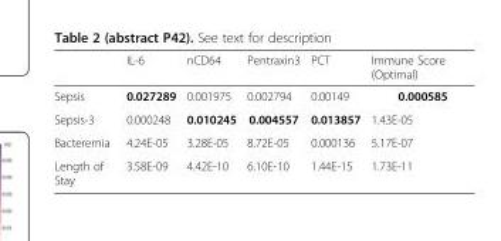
<table><thead><tr><td></td><td>IL-6</td><td>nCD64</td><td>Pentraxin3</td><td>PCT</td><td>Immune Score (Optimal)</td></tr></thead><tbody><tr><td>Sepsis</td><td>0.027289</td><td>0.001975</td><td>0.002794</td><td>0.00149</td><td>0.000585</td></tr><tr><td>Sepsis-3</td><td>0.000248</td><td>0.010245</td><td>0.004557</td><td>0.013857</td><td>1.43E-05</td></tr><tr><td>Bacteremia</td><td>4.24E-05</td><td>3.28E-05</td><td>8.72E-05</td><td>0.000136</td><td>5.17E-07</td></tr><tr><td>Length of Stay</td><td>3.58E-09</td><td>4.42E-10</td><td>6.10E-10</td><td>1.44E-15</td><td>1.73E-11</td></tr></tbody></table>